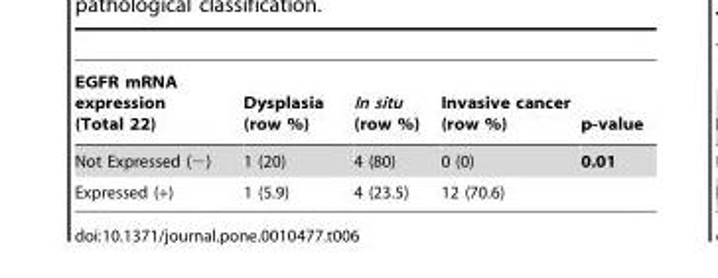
<table><thead><tr><td>EGFR mRNA expression (Total 22)</td><td>Dysplasia (row %)</td><td>In situ (row %)</td><td>Invasive cancer (row %)</td><td>p-value</td></tr></thead><tbody><tr><td>Not Expressed (−)</td><td>1 (20)</td><td>4 (80)</td><td>0 (0)</td><td>0.01</td></tr><tr><td>Expressed (+)</td><td>1 (5.9)</td><td>4 (23.5)</td><td>12 (70.6)</td><td></td></tr></tbody></table>